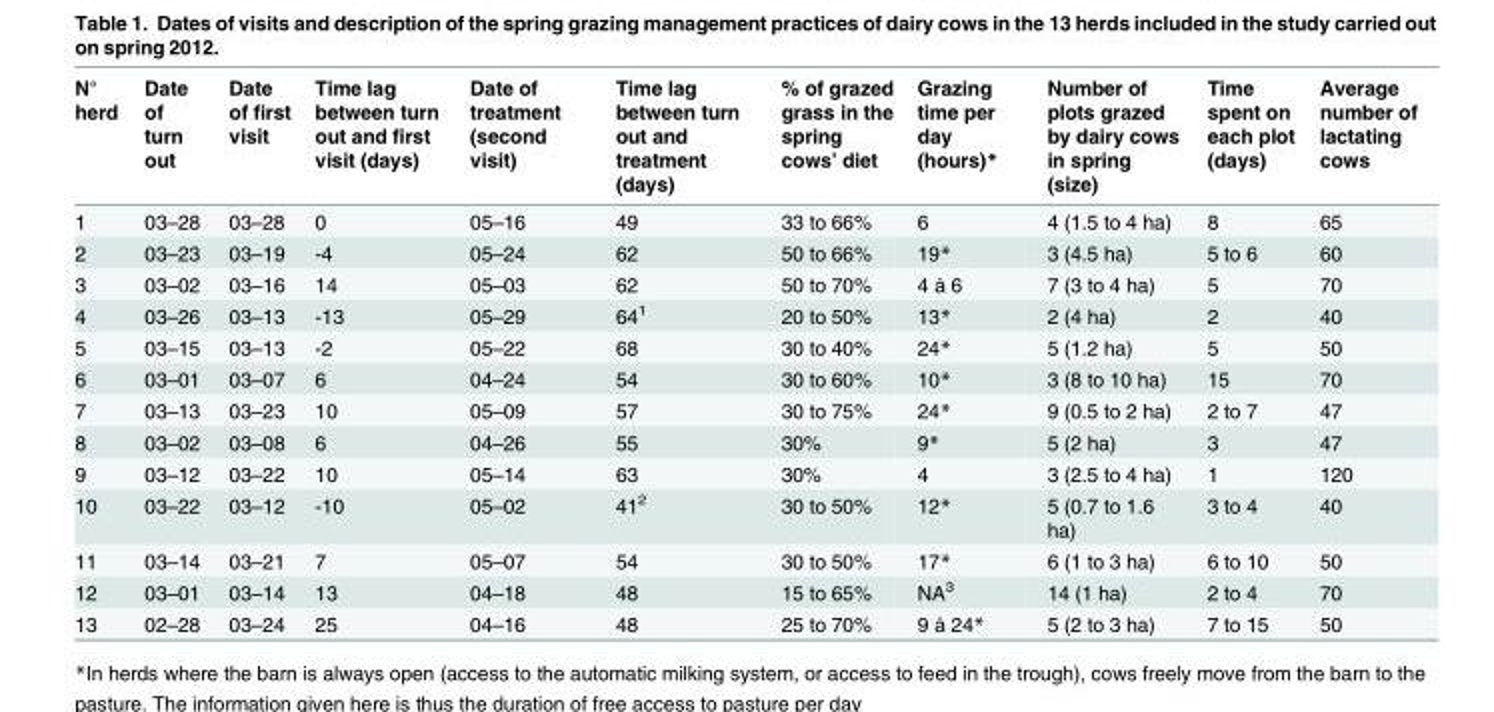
<table><thead><tr><td>N° herd</td><td>Date of turn out</td><td>Date of first visit</td><td>Time lag between turn out and first visit (days)</td><td>Date of treatment (second visit)</td><td>Time lag between turn out and treatment (days)</td><td>% of grazed grass in the spring cows’ diet</td><td>Grazing time per day (hours)*</td><td>Number of plots grazed by dairy cows in spring (size)</td><td>Time spent on each plot (days)</td><td>Average number of lactating cows</td></tr></thead><tbody><tr><td>1</td><td>03–28</td><td>03–28</td><td>0</td><td>05–16</td><td>49</td><td>33 to 66%</td><td>6</td><td>4 (1.5 to 4 ha)</td><td>8</td><td>65</td></tr><tr><td>2</td><td>03–23</td><td>03–19</td><td>-4</td><td>05–24</td><td>62</td><td>50 to 66%</td><td>19*</td><td>3 (4.5 ha)</td><td>5 to 6</td><td>60</td></tr><tr><td>3</td><td>03–02</td><td>03–16</td><td>14</td><td>05–03</td><td>62</td><td>50 to 70%</td><td>4 à 6</td><td>7 (3 to 4 ha)</td><td>5</td><td>70</td></tr><tr><td>4</td><td>03–26</td><td>03–13</td><td>-13</td><td>05–29</td><td>64<sup>1</sup></td><td>20 to 50%</td><td>13*</td><td>2 (4 ha)</td><td>2</td><td>40</td></tr><tr><td>5</td><td>03–15</td><td>03–13</td><td>-2</td><td>05–22</td><td>68</td><td>30 to 40%</td><td>24*</td><td>5 (1.2 ha)</td><td>5</td><td>50</td></tr><tr><td>6</td><td>03–01</td><td>03–07</td><td>6</td><td>04–24</td><td>54</td><td>30 to 60%</td><td>10*</td><td>3 (8 to 10 ha)</td><td>15</td><td>70</td></tr><tr><td>7</td><td>03–13</td><td>03–23</td><td>10</td><td>05–09</td><td>57</td><td>30 to 75%</td><td>24*</td><td>9 (0.5 to 2 ha)</td><td>2 to 7</td><td>47</td></tr><tr><td>8</td><td>03–02</td><td>03–08</td><td>6</td><td>04–26</td><td>55</td><td>30%</td><td>9*</td><td>5 (2 ha)</td><td>3</td><td>47</td></tr><tr><td>9</td><td>03–12</td><td>03–22</td><td>10</td><td>05–14</td><td>63</td><td>30%</td><td>4</td><td>3 (2.5 to 4 ha)</td><td>1</td><td>120</td></tr><tr><td>10</td><td>03–22</td><td>03–12</td><td>-10</td><td>05–02</td><td>41<sup>2</sup></td><td>30 to 50%</td><td>12*</td><td>5 (0.7 to 1.6 ha)</td><td>3 to 4</td><td>40</td></tr><tr><td>11</td><td>03–14</td><td>03–21</td><td>7</td><td>05–07</td><td>54</td><td>30 to 50%</td><td>17*</td><td>6 (1 to 3 ha)</td><td>6 to 10</td><td>50</td></tr><tr><td>12</td><td>03–01</td><td>03–14</td><td>13</td><td>04–18</td><td>48</td><td>15 to 65%</td><td>NA<sup>3</sup></td><td>14 (1 ha)</td><td>2 to 4</td><td>70</td></tr><tr><td>13</td><td>02–28</td><td>03–24</td><td>25</td><td>04–16</td><td>48</td><td>25 to 70%</td><td>9 à 24*</td><td>5 (2 to 3 ha)</td><td>7 to 15</td><td>50</td></tr></tbody></table>